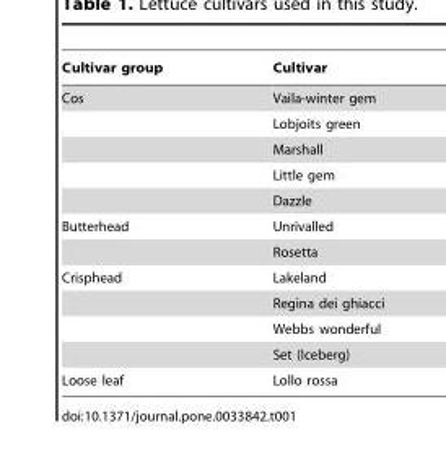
<table><thead><tr><td>Cultivar group</td><td>Cultivar</td></tr></thead><tbody><tr><td rowspan="5">Cos</td><td>Vaila-winter gem</td></tr><tr><td>Lobjoits green</td></tr><tr><td>Marshall</td></tr><tr><td>Little gem</td></tr><tr><td>Dazzle</td></tr><tr><td rowspan="2">Butterhead</td><td>Unrivalled</td></tr><tr><td>Rosetta</td></tr><tr><td rowspan="4">Crisphead</td><td>Lakeland</td></tr><tr><td>Regina dei ghiacci</td></tr><tr><td>Webbs wonderful</td></tr><tr><td>Set (Iceberg)</td></tr><tr><td>Loose leaf</td><td>Lollo rossa</td></tr></tbody></table>